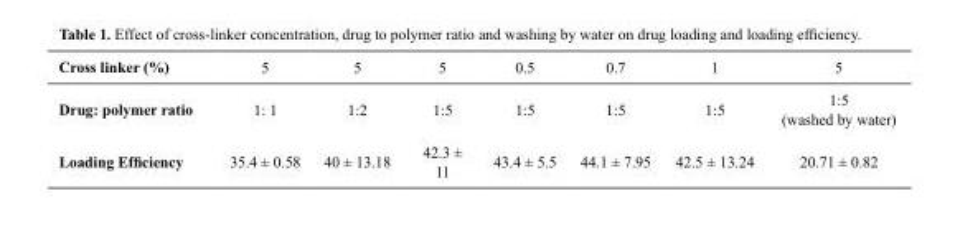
<table><thead><tr><td>Cross linker (%)</td><td>5</td><td>5</td><td>5</td><td>0.5</td><td>0.7</td><td>1</td><td>5</td></tr></thead><tbody><tr><td>Drug: polymer ratio</td><td>1: 1</td><td>1:2</td><td>1:5</td><td>1:5</td><td>1:5</td><td>1:5</td><td>1:5 (washed by water)</td></tr><tr><td>Loading Efficiency</td><td>35.4 ± 0.58</td><td>40 ± 13.18</td><td>42.3 ± 11</td><td>43.4 ± 5.5</td><td>44.1 ± 7.95</td><td>42.5 ± 13.24</td><td>20.71 ± 0.82</td></tr></tbody></table>